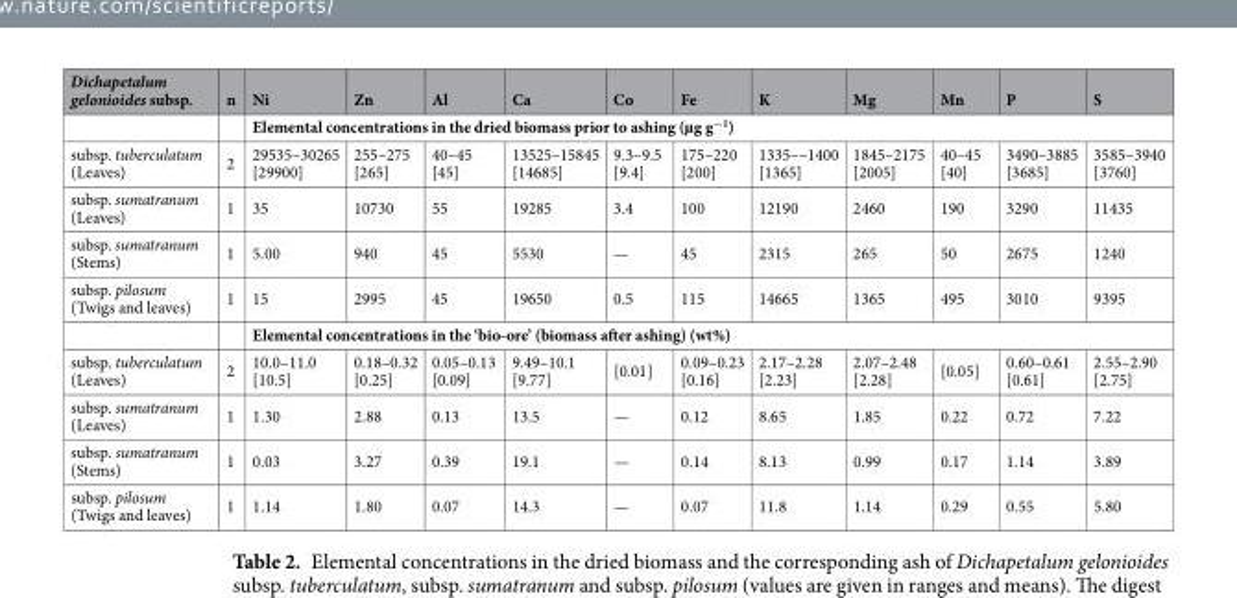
<table><thead><tr><td>Dichapetalum gelonioides subsp.</td><td>n</td><td>Ni</td><td>Zn</td><td>Al</td><td>Ca</td><td>Co</td><td>Fe</td><td>K</td><td>Mg</td><td>Mn</td><td>P</td><td>S</td></tr></thead><tbody><tr><td></td><td></td><td colspan="11">Elemental concentrations in the dried biomass prior to ashing (µg g<sup>−1</sup>)</td></tr><tr><td>subsp. tuberculatum (Leaves)</td><td>2</td><td>29535–30265 [29900]</td><td>255–275 [265]</td><td>40–45 [45]</td><td>13525–15845 [14685]</td><td>9.3–9.5 [9.4]</td><td>175–220 [200]</td><td>1335––1400 [1365]</td><td>1845–2175 [2005]</td><td>40–45 [40]</td><td>3490–3885 [3685]</td><td>3585–3940 [3760]</td></tr><tr><td>subsp. sumatranum (Leaves)</td><td>1</td><td>35</td><td>10730</td><td>55</td><td>19285</td><td>3.4</td><td>100</td><td>12190</td><td>2460</td><td>190</td><td>3290</td><td>11435</td></tr><tr><td>subsp. sumatranum (Stems)</td><td>1</td><td>5.00</td><td>940</td><td>45</td><td>5530</td><td>—</td><td>45</td><td>2315</td><td>265</td><td>50</td><td>2675</td><td>1240</td></tr><tr><td rowspan="2">subsp. pilosum (Twigs and leaves)</td><td>1</td><td>15</td><td>2995</td><td>45</td><td>19650</td><td>0.5</td><td>115</td><td>14665</td><td>1365</td><td>495</td><td>3010</td><td>9395</td></tr><tr><td></td><td colspan="11">Elemental concentrations in the ‘bio-ore’ (biomass after ashing) (wt%)</td></tr><tr><td>subsp. tuberculatum (Leaves)</td><td>2</td><td>10.0–11.0 [10.5]</td><td>0.18–0.32 [0.25]</td><td>0.05–0.13 [0.09]</td><td>9.49–10.1 [9.77]</td><td>[0.01]</td><td>0.09–0.23 [0.16]</td><td>2.17–2.28 [2.23]</td><td>2.07–2.48 [2.28]</td><td>[0.05]</td><td>0.60–0.61 [0.61]</td><td>2.55–2.90 [2.75]</td></tr><tr><td>subsp. sumatranum (Leaves)</td><td>1</td><td>1.30</td><td>2.88</td><td>0.13</td><td>13.5</td><td>—</td><td>0.12</td><td>8.65</td><td>1.85</td><td>0.22</td><td>0.72</td><td>7.22</td></tr><tr><td>subsp. sumatranum (Stems)</td><td>1</td><td>0.03</td><td>3.27</td><td>0.39</td><td>19.1</td><td>—</td><td>0.14</td><td>8.13</td><td>0.99</td><td>0.17</td><td>1.14</td><td>3.89</td></tr><tr><td>subsp. pilosum (Twigs and leaves)</td><td>1</td><td>1.14</td><td>1.80</td><td>0.07</td><td>14.3</td><td>—</td><td>0.07</td><td>11.8</td><td>1.14</td><td>0.29</td><td>0.55</td><td>5.80</td></tr></tbody></table>